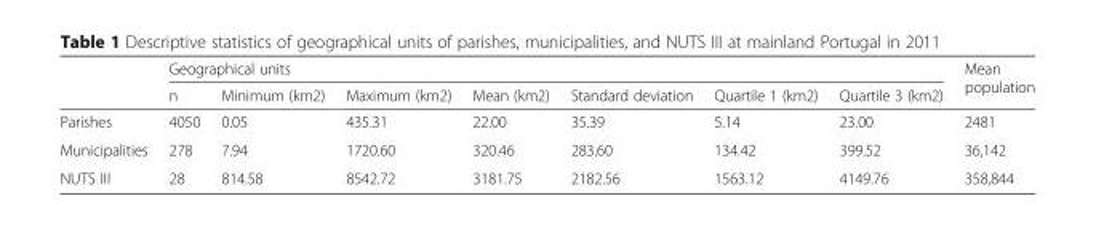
<table><thead><tr><td rowspan="2"></td><td colspan="7">Geographical units</td><td rowspan="2">Mean population</td></tr><tr><td>n</td><td>Minimum (km2)</td><td>Maximum (km2)</td><td>Mean (km2)</td><td>Standard deviation</td><td>Quartile 1 (km2)</td><td>Quartile 3 (km2)</td></tr></thead><tbody><tr><td>Parishes</td><td>4050</td><td>0.05</td><td>435.31</td><td>22.00</td><td>35.39</td><td>5.14</td><td>23.00</td><td>2481</td></tr><tr><td>Municipalities</td><td>278</td><td>7.94</td><td>1720.60</td><td>320.46</td><td>283.60</td><td>134.42</td><td>399.52</td><td>36,142</td></tr><tr><td>NUTS III</td><td>28</td><td>814.58</td><td>8542.72</td><td>3181.75</td><td>2182.56</td><td>1563.12</td><td>4149.76</td><td>358,844</td></tr></tbody></table>